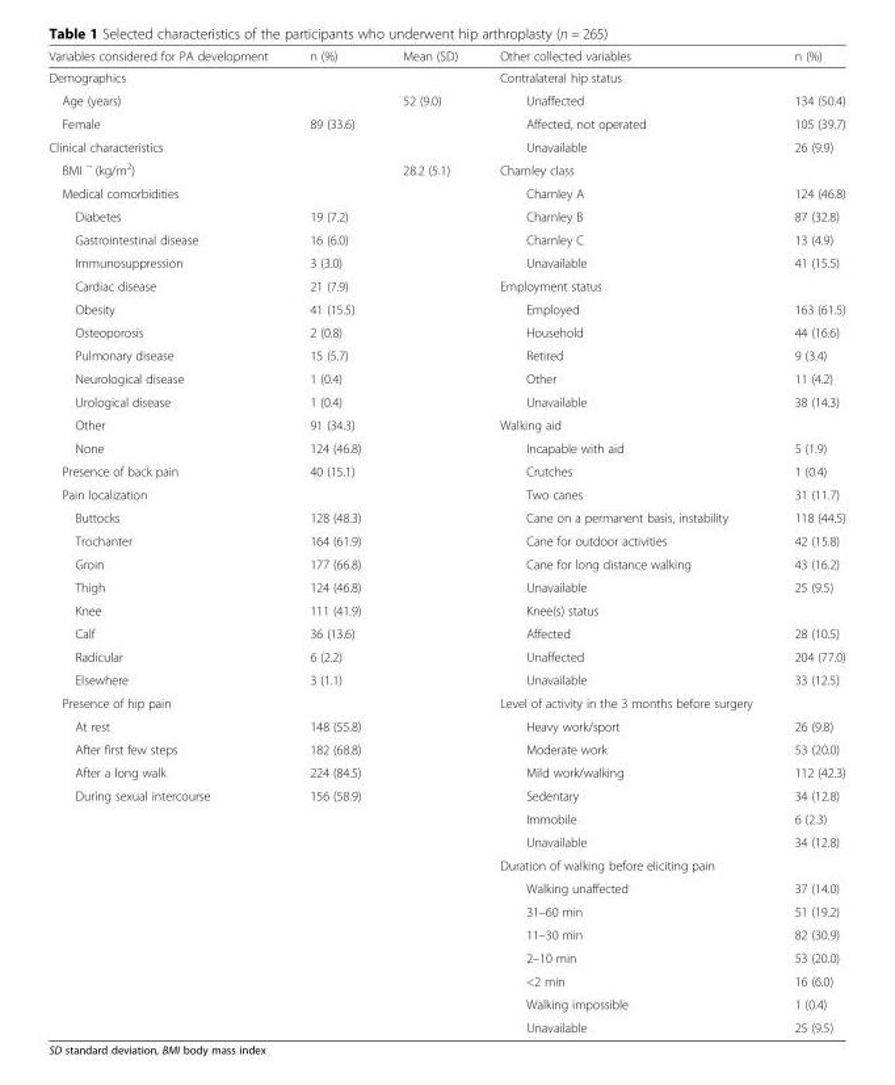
<table><thead><tr><td>Variables considered for PA development</td><td>n (%)</td><td>Mean (SD)</td><td>Other collected variables</td><td>n (%)</td></tr></thead><tbody><tr><td>Demographics</td><td></td><td></td><td>Contralateral hip status</td><td></td></tr><tr><td>Age (years)</td><td></td><td>52 (9.0)</td><td>Unaffected</td><td>134 (50.4)</td></tr><tr><td>Female</td><td>89 (33.6)</td><td></td><td>Affected, not operated</td><td>105 (39.7)</td></tr><tr><td>Clinical characteristics</td><td></td><td></td><td>Unavailable</td><td>26 (9.9)</td></tr><tr><td>BMI <sup>¬</sup> (kg/m<sup>2</sup>)</td><td></td><td>28.2 (5.1)</td><td>Charnley class</td><td></td></tr><tr><td>Medical comorbidities</td><td></td><td></td><td>Charnley A</td><td>124 (46.8)</td></tr><tr><td>Diabetes</td><td>19 (7.2)</td><td></td><td>Charnley B</td><td>87 (32.8)</td></tr><tr><td>Gastrointestinal disease</td><td>16 (6.0)</td><td></td><td>Charnley C</td><td>13 (4.9)</td></tr><tr><td>Immunosuppression</td><td>3 (3.0)</td><td></td><td>Unavailable</td><td>41 (15.5)</td></tr><tr><td>Cardiac disease</td><td>21 (7.9)</td><td></td><td>Employment status</td><td></td></tr><tr><td>Obesity</td><td>41 (15.5)</td><td></td><td>Employed</td><td>163 (61.5)</td></tr><tr><td>Osteoporosis</td><td>2 (0.8)</td><td></td><td>Household</td><td>44 (16.6)</td></tr><tr><td>Pulmonary disease</td><td>15 (5.7)</td><td></td><td>Retired</td><td>9 (3.4)</td></tr><tr><td>Neurological disease</td><td>1 (0.4)</td><td></td><td>Other</td><td>11 (4.2)</td></tr><tr><td>Urological disease</td><td>1 (0.4)</td><td></td><td>Unavailable</td><td>38 (14.3)</td></tr><tr><td>Other</td><td>91 (34.3)</td><td></td><td>Walking aid</td><td></td></tr><tr><td>None</td><td>124 (46.8)</td><td></td><td>Incapable with aid</td><td>5 (1.9)</td></tr><tr><td>Presence of back pain</td><td>40 (15.1)</td><td></td><td>Crutches</td><td>1 (0.4)</td></tr><tr><td>Pain localization</td><td></td><td></td><td>Two canes</td><td>31 (11.7)</td></tr><tr><td>Buttocks</td><td>128 (48.3)</td><td></td><td>Cane on a permanent basis, instability</td><td>118 (44.5)</td></tr><tr><td>Trochanter</td><td>164 (61.9)</td><td></td><td>Cane for outdoor activities</td><td>42 (15.8)</td></tr><tr><td>Groin</td><td>177 (66.8)</td><td></td><td>Cane for long distance walking</td><td>43 (16.2)</td></tr><tr><td>Thigh</td><td>124 (46.8)</td><td></td><td>Unavailable</td><td>25 (9.5)</td></tr><tr><td>Knee</td><td>111 (41.9)</td><td></td><td>Knee(s) status</td><td></td></tr><tr><td>Calf</td><td>36 (13.6)</td><td></td><td>Affected</td><td>28 (10.5)</td></tr><tr><td>Radicular</td><td>6 (2.2)</td><td></td><td>Unaffected</td><td>204 (77.0)</td></tr><tr><td>Elsewhere</td><td>3 (1.1)</td><td></td><td>Unavailable</td><td>33 (12.5)</td></tr><tr><td>Presence of hip pain</td><td></td><td></td><td>Level of activity in the 3 months before surgery</td><td></td></tr><tr><td>At rest</td><td>148 (55.8)</td><td></td><td>Heavy work/sport</td><td>26 (9.8)</td></tr><tr><td>After first few steps</td><td>182 (68.8)</td><td></td><td>Moderate work</td><td>53 (20.0)</td></tr><tr><td>After a long walk</td><td>224 (84.5)</td><td></td><td>Mild work/walking</td><td>112 (42.3)</td></tr><tr><td rowspan="11">During sexual intercourse</td><td>156 (58.9)</td><td></td><td>Sedentary</td><td>34 (12.8)</td></tr><tr><td></td><td></td><td>Immobile</td><td>6 (2.3)</td></tr><tr><td></td><td></td><td>Unavailable</td><td>34 (12.8)</td></tr><tr><td></td><td></td><td>Duration of walking before eliciting pain</td><td></td></tr><tr><td></td><td></td><td>Walking unaffected</td><td>37 (14.0)</td></tr><tr><td></td><td></td><td>31–60 min</td><td>51 (19.2)</td></tr><tr><td></td><td></td><td>11–30 min</td><td>82 (30.9)</td></tr><tr><td></td><td></td><td>2–10 min</td><td>53 (20.0)</td></tr><tr><td></td><td></td><td>&lt;2 min</td><td>16 (6.0)</td></tr><tr><td></td><td></td><td>Walking impossible</td><td>1 (0.4)</td></tr><tr><td></td><td></td><td>Unavailable</td><td>25 (9.5)</td></tr></tbody></table>